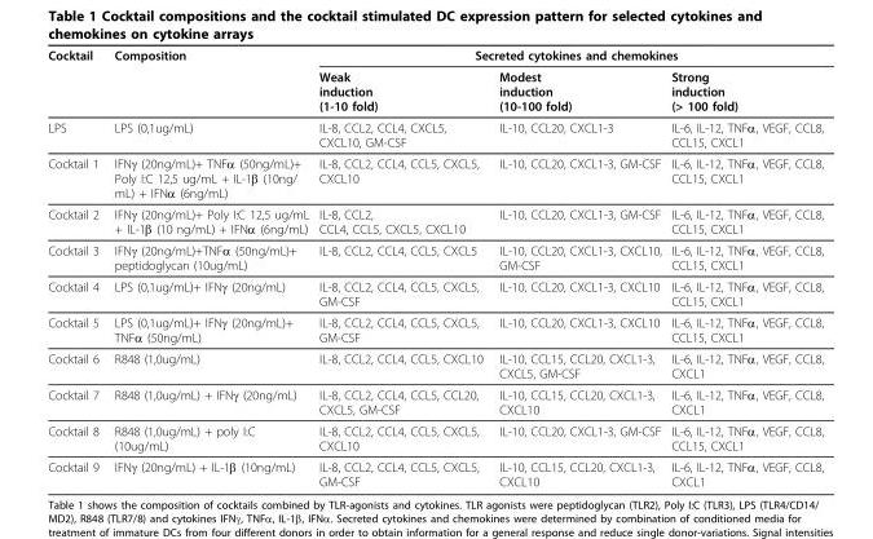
<table><thead><tr><td rowspan="2">Cocktail</td><td rowspan="2">Composition</td><td colspan="3">Secreted cytokines and chemokines</td></tr><tr><td>Weak induction (1-10 fold)</td><td>Modest induction (10-100 fold)</td><td>Strong induction (&gt; 100 fold)</td></tr></thead><tbody><tr><td>LPS</td><td>LPS (0,1ug/mL)</td><td>IL-8, CCL2, CCL4, CXCL5, CXCL10, GM-CSF</td><td>IL-10, CCL20, CXCL1-3</td><td>IL-6, IL-12, TNFα, VEGF, CCL8, CCL15, CXCL1</td></tr><tr><td>Cocktail 1</td><td>IFNγ (20ng/mL)+ TNFα (50ng/mL)+ Poly I:C 12,5 ug/mL + IL-1β (10ng/ mL) + IFNα (6ng/mL)</td><td>IL-8, CCL2, CCL4, CCL5, CXCL5, CXCL10</td><td>IL-10, CCL20, CXCL1-3, GM-CSF</td><td>IL-6, IL-12, TNFα, VEGF, CCL8, CCL15, CXCL1</td></tr><tr><td>Cocktail 2</td><td>IFNγ (20ng/mL)+ Poly I:C 12,5 ug/mL + IL-1β (10 ng/mL) + IFNα (6ng/mL)</td><td>IL-8, CCL2, CCL4, CCL5, CXCL5, CXCL10</td><td>IL-10, CCL20, CXCL1-3, GM-CSF</td><td>IL-6, IL-12, TNFα, VEGF, CCL8, CCL15, CXCL1</td></tr><tr><td>Cocktail 3</td><td>IFNγ (20ng/mL)+TNFα (50ng/mL)+ peptidoglycan (10ug/mL)</td><td>IL-8, CCL2, CCL4, CCL5, CXCL5</td><td>IL-10, CCL20, CXCL1-3, CXCL10, GM-CSF</td><td>IL-6, IL-12, TNFα, VEGF, CCL8, CCL15, CXCL1</td></tr><tr><td>Cocktail 4</td><td>LPS (0,1ug/mL)+ IFNγ (20ng/mL)</td><td>IL-8, CCL2, CCL4, CCL5, CXCL5, GM-CSF</td><td>IL-10, CCL20, CXCL1-3, CXCL10</td><td>IL-6, IL-12, TNFα, VEGF, CCL8, CCL15, CXCL1</td></tr><tr><td>Cocktail 5</td><td>LPS (0,1ug/mL)+ IFNγ (20ng/mL)+ TNFα (50ng/mL)</td><td>IL-8, CCL2, CCL4, CCL5, CXCL5, GM-CSF</td><td>IL-10, CCL20, CXCL1-3, CXCL10</td><td>IL-6, IL-12, TNFα, VEGF, CCL8, CCL15, CXCL1</td></tr><tr><td>Cocktail 6</td><td>R848 (1,0ug/mL)</td><td>IL-8, CCL2, CCL4, CCL5, CXCL10</td><td>IL-10, CCL15, CCL20, CXCL1-3, CXCL5, GM-CSF</td><td>IL-6, IL-12, TNFα, VEGF, CCL8, CXCL1</td></tr><tr><td>Cocktail 7</td><td>R848 (1,0ug/mL) + IFNγ (20ng/mL)</td><td>IL-8, CCL2, CCL4, CCL5, CCL20, CXCL5, GM-CSF</td><td>IL-10, CCL15, CCL20, CXCL1-3, CXCL10</td><td>IL-6, IL-12, TNFα, VEGF, CCL8, CXCL1</td></tr><tr><td>Cocktail 8</td><td>R848 (1,0ug/mL) + poly I:C (10ug/mL)</td><td>IL-8, CCL2, CCL4, CCL5, CXCL5, CXCL10</td><td>IL-10, CCL20, CXCL1-3, GM-CSF</td><td>IL-6, IL-12, TNFα, VEGF, CCL8, CCL15, CXCL1</td></tr><tr><td>Cocktail 9</td><td>IFNγ (20ng/mL) + IL-1β (10ng/mL)</td><td>IL-8, CCL2, CCL4, CCL5, CXCL5, GM-CSF</td><td>IL-10, CCL15, CCL20, CXCL1-3, CXCL10</td><td>IL-6, IL-12, TNFα, VEGF, CCL8, CXCL1</td></tr></tbody></table>